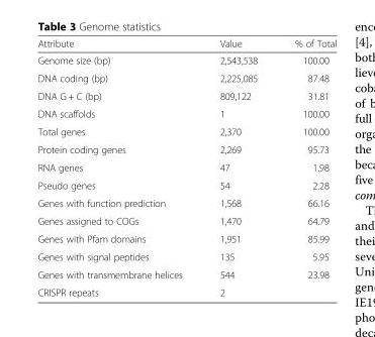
<table><thead><tr><td>Attribute</td><td>Value</td><td>% of Total</td></tr></thead><tbody><tr><td>Genome size (bp)</td><td>2,543,538</td><td>100.00</td></tr><tr><td>DNA coding (bp)</td><td>2,225,085</td><td>87.48</td></tr><tr><td>DNA G + C (bp)</td><td>809,122</td><td>31.81</td></tr><tr><td>DNA scaffolds</td><td>1</td><td>100.00</td></tr><tr><td>Total genes</td><td>2,370</td><td>100.00</td></tr><tr><td>Protein coding genes</td><td>2,269</td><td>95.73</td></tr><tr><td>RNA genes</td><td>47</td><td>1.98</td></tr><tr><td>Pseudo genes</td><td>54</td><td>2.28</td></tr><tr><td>Genes with function prediction</td><td>1,568</td><td>66.16</td></tr><tr><td>Genes assigned to COGs</td><td>1,470</td><td>64.79</td></tr><tr><td>Genes with Pfam domains</td><td>1,951</td><td>85.99</td></tr><tr><td>Genes with signal peptides</td><td>135</td><td>5.95</td></tr><tr><td>Genes with transmembrane helices</td><td>544</td><td>23.98</td></tr><tr><td>CRISPR repeats</td><td>2</td><td></td></tr></tbody></table>